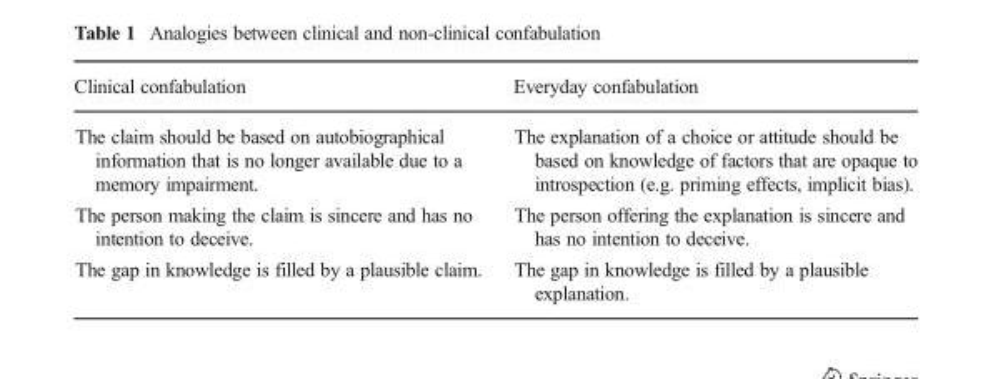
<table><thead><tr><td>Clinical confabulation</td><td>Everyday confabulation</td></tr></thead><tbody><tr><td>The claim should be based on autobiographical information that is no longer available due to a memory impairment.</td><td>The explanation of a choice or attitude should be based on knowledge of factors that are opaque to introspection (e.g. priming effects, implicit bias).</td></tr><tr><td>The person making the claim is sincere and has no intention to deceive.</td><td>The person offering the explanation is sincere and has no intention to deceive.</td></tr><tr><td>The gap in knowledge is filled by a plausible claim.</td><td>The gap in knowledge is filled by a plausible explanation.</td></tr></tbody></table>